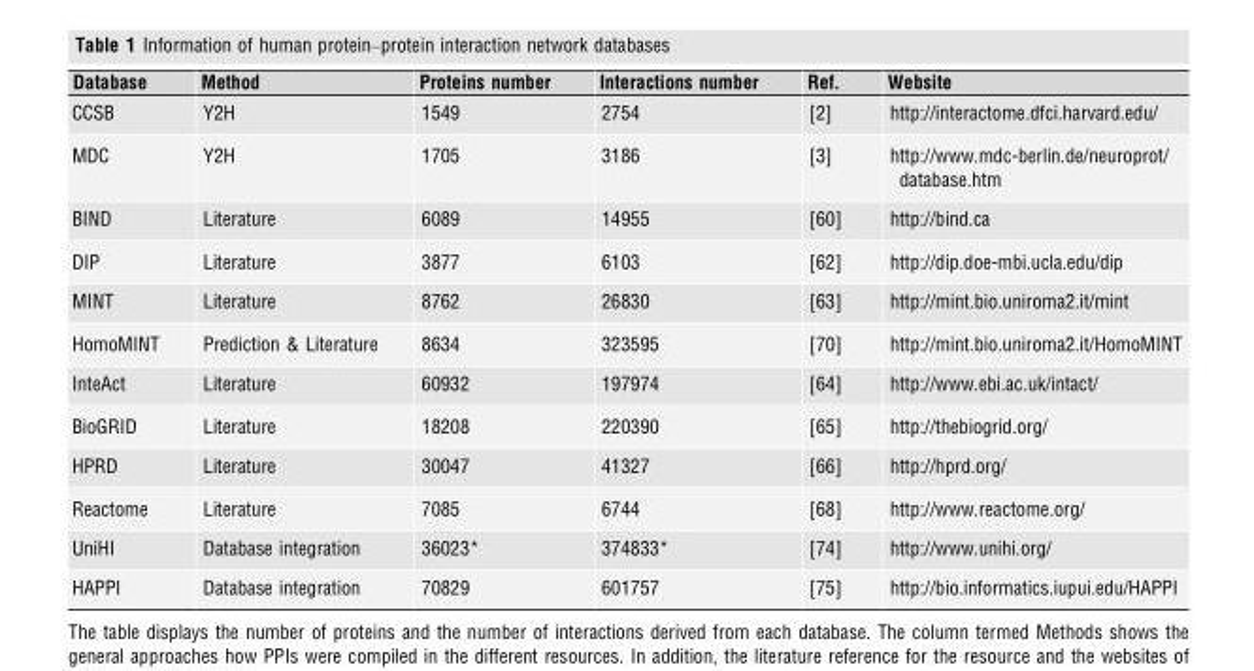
<table><thead><tr><td>Database</td><td>Method</td><td>Proteins number</td><td>Interactions number</td><td>Ref.</td><td>Website</td></tr></thead><tbody><tr><td>CCSB</td><td>Y2H</td><td>1549</td><td>2754</td><td>[2]</td><td>http://interactome.dfci.harvard.edu/</td></tr><tr><td>MDC</td><td>Y2H</td><td>1705</td><td>3186</td><td>[3]</td><td>http://www.mdc-berlin.de/neuroprot/ database.htm</td></tr><tr><td>BIND</td><td>Literature</td><td>6089</td><td>14955</td><td>[60]</td><td>http://bind.ca</td></tr><tr><td>DIP</td><td>Literature</td><td>3877</td><td>6103</td><td>[62]</td><td>http://dip.doe-mbi.ucla.edu/dip</td></tr><tr><td>MINT</td><td>Literature</td><td>8762</td><td>26830</td><td>[63]</td><td>http://mint.bio.uniroma2.it/mint</td></tr><tr><td>HomoMINT</td><td>Prediction &amp; Literature</td><td>8634</td><td>323595</td><td>[70]</td><td>http://mint.bio.uniroma2.it/HomoMINT</td></tr><tr><td>InteAct</td><td>Literature</td><td>60932</td><td>197974</td><td>[64]</td><td>http://www.ebi.ac.uk/intact/</td></tr><tr><td>BioGRID</td><td>Literature</td><td>18208</td><td>220390</td><td>[65]</td><td>http://thebiogrid.org/</td></tr><tr><td>HPRD</td><td>Literature</td><td>30047</td><td>41327</td><td>[66]</td><td>http://hprd.org/</td></tr><tr><td>Reactome</td><td>Literature</td><td>7085</td><td>6744</td><td>[68]</td><td>http://www.reactome.org/</td></tr><tr><td>UniHI</td><td>Database integration</td><td>36023*</td><td>374833*</td><td>[74]</td><td>http://www.unihi.org/</td></tr><tr><td>HAPPI</td><td>Database integration</td><td>70829</td><td>601757</td><td>[75]</td><td>http://bio.informatics.iupui.edu/HAPPI</td></tr></tbody></table>